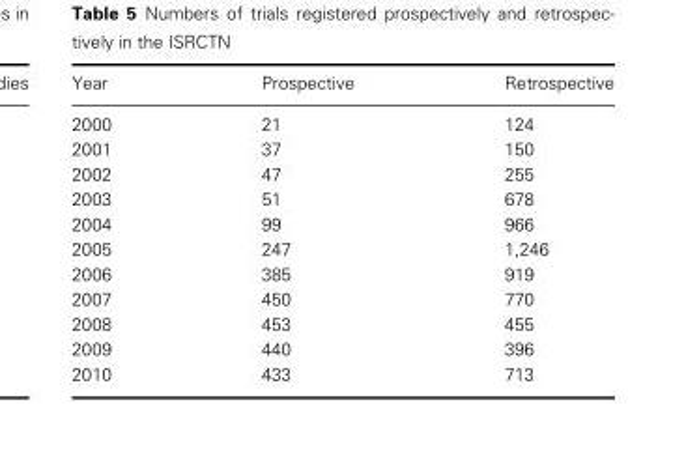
<table><thead><tr><td>Year</td><td>Prospective</td><td>Retrospective</td></tr></thead><tbody><tr><td>2000</td><td>21</td><td>124</td></tr><tr><td>2001</td><td>37</td><td>150</td></tr><tr><td>2002</td><td>47</td><td>255</td></tr><tr><td>2003</td><td>51</td><td>678</td></tr><tr><td>2004</td><td>99</td><td>966</td></tr><tr><td>2005</td><td>247</td><td>1,246</td></tr><tr><td>2006</td><td>385</td><td>919</td></tr><tr><td>2007</td><td>450</td><td>770</td></tr><tr><td>2008</td><td>453</td><td>455</td></tr><tr><td>2009</td><td>440</td><td>396</td></tr><tr><td>2010</td><td>433</td><td>713</td></tr></tbody></table>